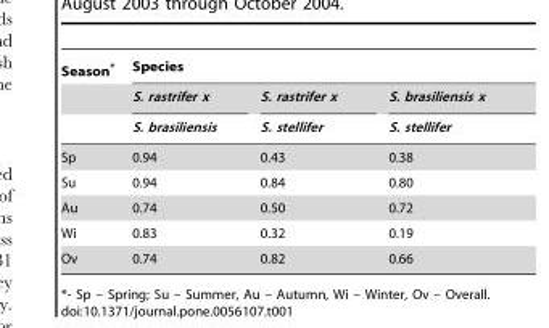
<table><thead><tr><td rowspan="3">Season*</td><td colspan="3">Species</td></tr><tr><td rowspan="2">S. rastrifer x S. brasiliensis</td><td rowspan="2">S. rastrifer x S. stellifer</td><td rowspan="2">S. brasiliensis x S. stellifer</td></tr><tr></tr></thead><tbody><tr><td>Sp</td><td>0.94</td><td>0.43</td><td>0.38</td></tr><tr><td>Su</td><td>0.94</td><td>0.84</td><td>0.80</td></tr><tr><td>Au</td><td>0.74</td><td>0.50</td><td>0.72</td></tr><tr><td>Wi</td><td>0.83</td><td>0.32</td><td>0.19</td></tr><tr><td>Ov</td><td>0.74</td><td>0.82</td><td>0.66</td></tr></tbody></table>